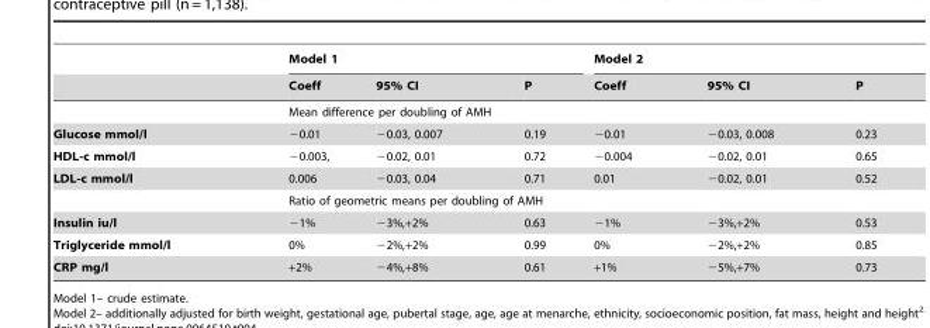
<table><thead><tr><td rowspan="2"></td><td colspan="3">Model 1</td><td colspan="3">Model 2</td></tr><tr><td>Coeff</td><td>95% CI</td><td>P</td><td>Coeff</td><td>95% CI</td><td>P</td></tr></thead><tbody><tr><td></td><td colspan="6">Mean difference per doubling of AMH</td></tr><tr><td>Glucose mmol/l</td><td>−0.01</td><td>−0.03, 0.007</td><td>0.19</td><td>−0.01</td><td>−0.03, 0.008</td><td>0.23</td></tr><tr><td>HDL-c mmol/l</td><td>−0.003,</td><td>−0.02, 0.01</td><td>0.72</td><td>−0.004</td><td>−0.02, 0.01</td><td>0.65</td></tr><tr><td rowspan="2">LDL-c mmol/l</td><td>0.006</td><td>−0.03, 0.04</td><td>0.71</td><td>0.01</td><td>−0.02, 0.01</td><td>0.52</td></tr><tr><td colspan="6">Ratio of geometric means per doubling of AMH</td></tr><tr><td>Insulin iu/l</td><td>−1%</td><td>−3%,+2%</td><td>0.63</td><td>−1%</td><td>−3%,+2%</td><td>0.53</td></tr><tr><td>Triglyceride mmol/l</td><td>0%</td><td>−2%,+2%</td><td>0.99</td><td>0%</td><td>−2%,+2%</td><td>0.85</td></tr><tr><td>CRP mg/l</td><td>+2%</td><td>−4%,+8%</td><td>0.61</td><td>+1%</td><td>−5%,+7%</td><td>0.73</td></tr></tbody></table>